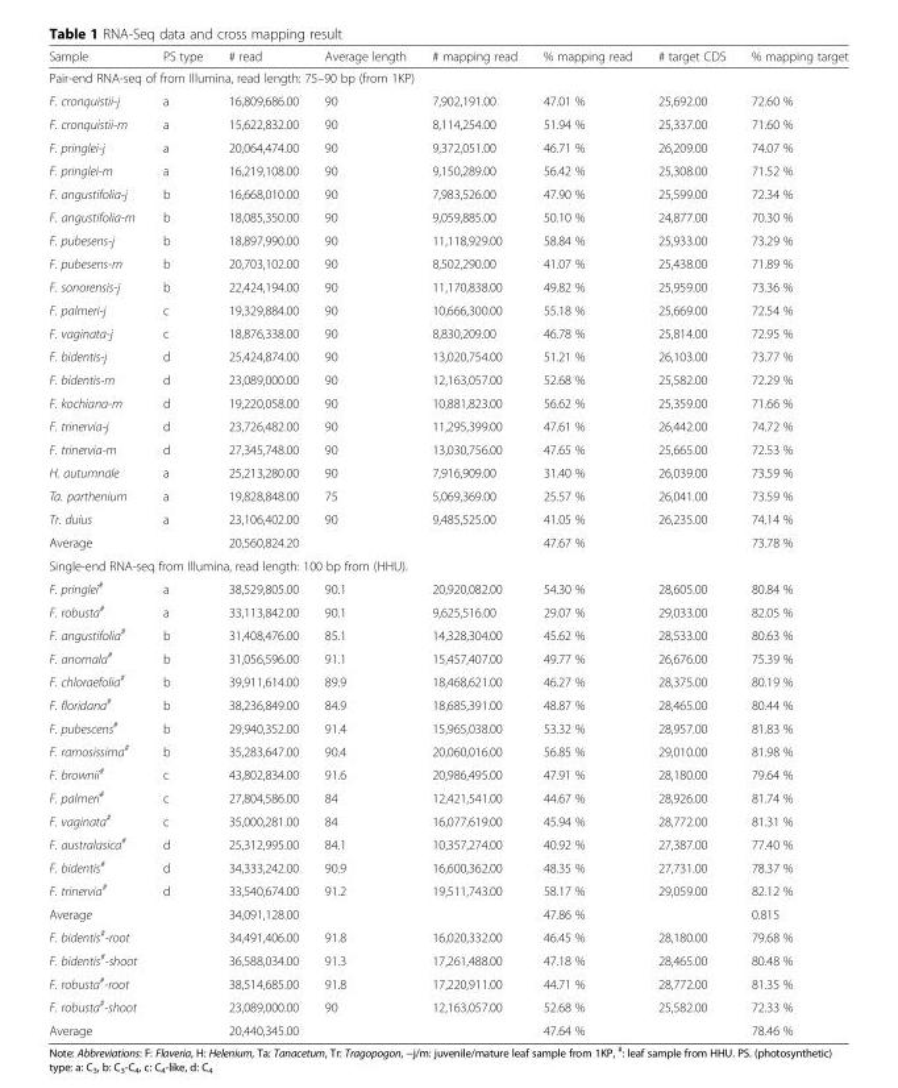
<table><thead><tr><td>Sample</td><td>PS type</td><td># read</td><td>Average length</td><td># mapping read</td><td>% mapping read</td><td># target CDS</td><td>% mapping target</td></tr></thead><tbody><tr><td colspan="8">Pair-end RNA-seq of from Illumina, read length: 75–90 bp (from 1KP)</td></tr><tr><td>F. cronquistii-j</td><td>a</td><td>16,809,686.00</td><td>90</td><td>7,902,191.00</td><td>47.01 %</td><td>25,692.00</td><td>72.60 %</td></tr><tr><td>F. cronquistii-m</td><td>a</td><td>15,622,832.00</td><td>90</td><td>8,114,254.00</td><td>51.94 %</td><td>25,337.00</td><td>71.60 %</td></tr><tr><td>F. pringlei-j</td><td>a</td><td>20,064,474.00</td><td>90</td><td>9,372,051.00</td><td>46.71 %</td><td>26,209.00</td><td>74.07 %</td></tr><tr><td>F. pringlei-m</td><td>a</td><td>16,219,108.00</td><td>90</td><td>9,150,289.00</td><td>56.42 %</td><td>25,308.00</td><td>71.52 %</td></tr><tr><td>F. angustifolia-j</td><td>b</td><td>16,668,010.00</td><td>90</td><td>7,983,526.00</td><td>47.90 %</td><td>25,599.00</td><td>72.34 %</td></tr><tr><td>F. angustifolia-m</td><td>b</td><td>18,085,350.00</td><td>90</td><td>9,059,885.00</td><td>50.10 %</td><td>24,877.00</td><td>70.30 %</td></tr><tr><td>F. pubesens-j</td><td>b</td><td>18,897,990.00</td><td>90</td><td>11,118,929.00</td><td>58.84 %</td><td>25,933.00</td><td>73.29 %</td></tr><tr><td>F. pubesens-m</td><td>b</td><td>20,703,102.00</td><td>90</td><td>8,502,290.00</td><td>41.07 %</td><td>25,438.00</td><td>71.89 %</td></tr><tr><td>F. sonorensis-j</td><td>b</td><td>22,424,194.00</td><td>90</td><td>11,170,838.00</td><td>49.82 %</td><td>25,959.00</td><td>73.36 %</td></tr><tr><td>F. palmeri-j</td><td>c</td><td>19,329,884.00</td><td>90</td><td>10,666,300.00</td><td>55.18 %</td><td>25,669.00</td><td>72.54 %</td></tr><tr><td>F. vaginata-j</td><td>c</td><td>18,876,338.00</td><td>90</td><td>8,830,209.00</td><td>46.78 %</td><td>25,814.00</td><td>72.95 %</td></tr><tr><td>F. bidentis-j</td><td>d</td><td>25,424,874.00</td><td>90</td><td>13,020,754.00</td><td>51.21 %</td><td>26,103.00</td><td>73.77 %</td></tr><tr><td>F. bidentis-m</td><td>d</td><td>23,089,000.00</td><td>90</td><td>12,163,057.00</td><td>52.68 %</td><td>25,582.00</td><td>72.29 %</td></tr><tr><td>F. kochiana-m</td><td>d</td><td>19,220,058.00</td><td>90</td><td>10,881,823.00</td><td>56.62 %</td><td>25,359.00</td><td>71.66 %</td></tr><tr><td>F. trinervia-j</td><td>d</td><td>23,726,482.00</td><td>90</td><td>11,295,399.00</td><td>47.61 %</td><td>26,442.00</td><td>74.72 %</td></tr><tr><td>F. trinervia-m</td><td>d</td><td>27,345,748.00</td><td>90</td><td>13,030,756.00</td><td>47.65 %</td><td>25,665.00</td><td>72.53 %</td></tr><tr><td>H. autumnale</td><td>a</td><td>25,213,280.00</td><td>90</td><td>7,916,909.00</td><td>31.40 %</td><td>26,039.00</td><td>73.59 %</td></tr><tr><td>Ta. parthenium</td><td>a</td><td>19,828,848.00</td><td>75</td><td>5,069,369.00</td><td>25.57 %</td><td>26,041.00</td><td>73.59 %</td></tr><tr><td>Tr. duius</td><td>a</td><td>23,106,402.00</td><td>90</td><td>9,485,525.00</td><td>41.05 %</td><td>26,235.00</td><td>74.14 %</td></tr><tr><td>Average</td><td></td><td>20,560,824.20</td><td></td><td></td><td>47.67 %</td><td></td><td>73.78 %</td></tr><tr><td colspan="8">Single-end RNA-seq from Illumina, read length: 100 bp from (HHU).</td></tr><tr><td>F. pringlei<sup>#</sup></td><td>a</td><td>38,529,805.00</td><td>90.1</td><td>20,920,082.00</td><td>54.30 %</td><td>28,605.00</td><td>80.84 %</td></tr><tr><td>F. robusta<sup>#</sup></td><td>a</td><td>33,113,842.00</td><td>90.1</td><td>9,625,516.00</td><td>29.07 %</td><td>29,033.00</td><td>82.05 %</td></tr><tr><td>F. angustifolia<sup>#</sup></td><td>b</td><td>31,408,476.00</td><td>85.1</td><td>14,328,304.00</td><td>45.62 %</td><td>28,533.00</td><td>80.63 %</td></tr><tr><td>F. anomala<sup>#</sup></td><td>b</td><td>31,056,596.00</td><td>91.1</td><td>15,457,407.00</td><td>49.77 %</td><td>26,676.00</td><td>75.39 %</td></tr><tr><td>F. chloraefolia<sup>#</sup></td><td>b</td><td>39,911,614.00</td><td>89.9</td><td>18,468,621.00</td><td>46.27 %</td><td>28,375.00</td><td>80.19 %</td></tr><tr><td>F. floridana<sup>#</sup></td><td>b</td><td>38,236,849.00</td><td>84.9</td><td>18,685,391.00</td><td>48.87 %</td><td>28,465.00</td><td>80.44 %</td></tr><tr><td>F. pubescens<sup>#</sup></td><td>b</td><td>29,940,352.00</td><td>91.4</td><td>15,965,038.00</td><td>53.32 %</td><td>28,957.00</td><td>81.83 %</td></tr><tr><td>F. ramosissima<sup>#</sup></td><td>b</td><td>35,283,647.00</td><td>90.4</td><td>20,060,016.00</td><td>56.85 %</td><td>29,010.00</td><td>81.98 %</td></tr><tr><td>F. brownii<sup>#</sup></td><td>c</td><td>43,802,834.00</td><td>91.6</td><td>20,986,495.00</td><td>47.91 %</td><td>28,180.00</td><td>79.64 %</td></tr><tr><td>F. palmeri<sup>#</sup></td><td>c</td><td>27,804,586.00</td><td>84</td><td>12,421,541.00</td><td>44.67 %</td><td>28,926.00</td><td>81.74 %</td></tr><tr><td>F. vaginata<sup>#</sup></td><td>c</td><td>35,000,281.00</td><td>84</td><td>16,077,619.00</td><td>45.94 %</td><td>28,772.00</td><td>81.31 %</td></tr><tr><td>F. australasica<sup>#</sup></td><td>d</td><td>25,312,995.00</td><td>84.1</td><td>10,357,274.00</td><td>40.92 %</td><td>27,387.00</td><td>77.40 %</td></tr><tr><td>F. bidentis<sup>#</sup></td><td>d</td><td>34,333,242.00</td><td>90.9</td><td>16,600,362.00</td><td>48.35 %</td><td>27,731.00</td><td>78.37 %</td></tr><tr><td>F. trinervia<sup>#</sup></td><td>d</td><td>33,540,674.00</td><td>91.2</td><td>19,511,743.00</td><td>58.17 %</td><td>29,059.00</td><td>82.12 %</td></tr><tr><td>Average</td><td></td><td>34,091,128.00</td><td></td><td></td><td>47.86 %</td><td></td><td>0.815</td></tr><tr><td>F. bidentis<sup>#</sup>-root</td><td></td><td>34,491,406.00</td><td>91.8</td><td>16,020,332.00</td><td>46.45 %</td><td>28,180.00</td><td>79.68 %</td></tr><tr><td>F. bidentis<sup>#</sup>-shoot</td><td></td><td>36,588,034.00</td><td>91.3</td><td>17,261,488.00</td><td>47.18 %</td><td>28,465.00</td><td>80.48 %</td></tr><tr><td>F. robusta<sup>#</sup>-root</td><td></td><td>38,514,685.00</td><td>91.8</td><td>17,220,911.00</td><td>44.71 %</td><td>28,772.00</td><td>81.35 %</td></tr><tr><td>F. robusta<sup>#</sup>-shoot</td><td></td><td>23,089,000.00</td><td>90</td><td>12,163,057.00</td><td>52.68 %</td><td>25,582.00</td><td>72.33 %</td></tr><tr><td>Average</td><td></td><td>20,440,345.00</td><td></td><td></td><td>47.64 %</td><td></td><td>78.46 %</td></tr></tbody></table>